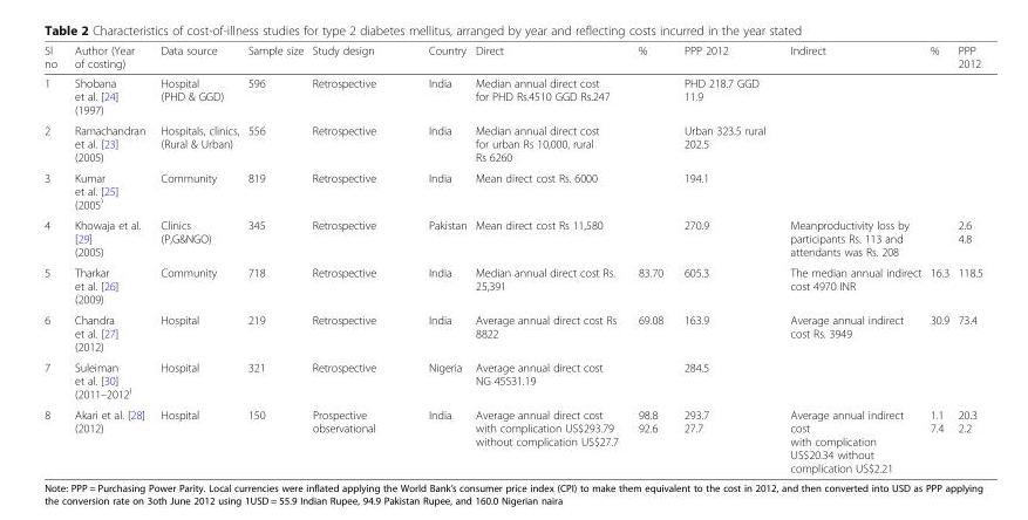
<table><thead><tr><td>Sl no</td><td>Author (Year of costing)</td><td>Data source</td><td>Sample size</td><td>Study design</td><td>Country</td><td>Direct</td><td>%</td><td>PPP 2012</td><td>Indirect</td><td>%</td><td>PPP 2012</td></tr></thead><tbody><tr><td>1</td><td>Shobana et al. [24] (1997)</td><td>Hospital (PHD &amp; GGD)</td><td>596</td><td>Retrospective</td><td>India</td><td>Median annual direct cost for PHD Rs.4510 GGD Rs.247</td><td></td><td>PHD 218.7 GGD 11.9</td><td></td><td></td><td></td></tr><tr><td>2</td><td>Ramachandran et al. [23] (2005)</td><td>Hospitals, clinics, (Rural &amp; Urban)</td><td>556</td><td>Retrospective</td><td>India</td><td>Median annual direct cost for urban Rs 10,000, rural Rs 6260</td><td></td><td>Urban 323.5 rural 202.5</td><td></td><td></td><td></td></tr><tr><td>3</td><td>Kumar et al. [25] (2005<sup>)</sup></td><td>Community</td><td>819</td><td>Retrospective</td><td>India</td><td>Mean direct cost Rs. 6000</td><td></td><td>194.1</td><td></td><td></td><td></td></tr><tr><td>4</td><td>Khowaja et al. [29] (2005)</td><td>Clinics (P,G&amp;NGO)</td><td>345</td><td>Retrospective</td><td>Pakistan</td><td>Mean direct cost Rs 11,580</td><td></td><td>270.9</td><td>Meanproductivity loss by participants Rs. 113 and attendants was Rs. 208</td><td></td><td>2.6 4.8</td></tr><tr><td>5</td><td>Tharkar et al. [26] (2009)</td><td>Community</td><td>718</td><td>Retrospective</td><td>India</td><td>Median annual direct cost Rs. 25,391</td><td>83.70</td><td>605.3</td><td>The median annual indirect cost 4970 INR</td><td>16.3</td><td>118.5</td></tr><tr><td>6</td><td>Chandra et al. [27] (2012)</td><td>Hospital</td><td>219</td><td>Retrospective</td><td>India</td><td>Average annual direct cost Rs 8822</td><td>69.08</td><td>163.9</td><td>Average annual indirect cost Rs. 3949</td><td>30.9</td><td>73.4</td></tr><tr><td>7</td><td>Suleiman et al. [30] (2011–2012<sup>)</sup></td><td>Hospital</td><td>321</td><td>Retrospective</td><td>Nigeria</td><td>Average annual direct cost NG 45531.19</td><td></td><td>284.5</td><td></td><td></td><td></td></tr><tr><td>8</td><td>Akari et al. [28] (2012)</td><td>Hospital</td><td>150</td><td>Prospective observational</td><td>India</td><td>Average annual direct cost with complication US$293.79 without complication US$27.7</td><td>98.8 92.6</td><td>293.7 27.7</td><td>Average annual indirect cost with complication US$20.34 without complication US$2.21</td><td>1.1 7.4</td><td>20.3 2.2</td></tr></tbody></table>